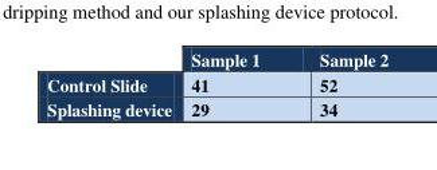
<table><thead><tr><td></td><td>Sample 1</td><td>Sample 2</td></tr></thead><tbody><tr><td>Control Slide</td><td>41</td><td>52</td></tr><tr><td>Splashing device</td><td>29</td><td>34</td></tr></tbody></table>